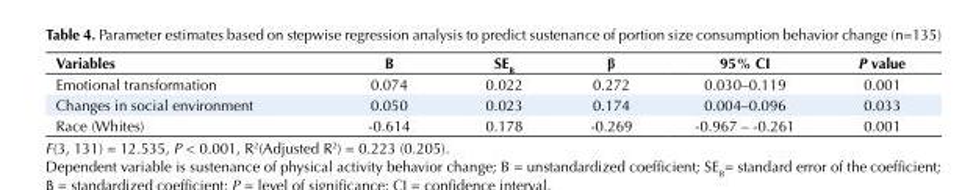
<table><tbody><tr><td>Variables</td><td>B</td><td>SE<sub>B</sub></td><td>β</td><td>95% CI</td><td>P value</td></tr><tr><td>Emotional transformation</td><td>0.074</td><td>0.022</td><td>0.272</td><td>0.030–0.119</td><td>0.001</td></tr><tr><td>Changes in social environment</td><td>0.050</td><td>0.023</td><td>0.174</td><td>0.004–0.096</td><td>0.033</td></tr><tr><td>Race (Whites)</td><td>-0.614</td><td>0.178</td><td>-0.269</td><td>-0.967 – -0.261</td><td>0.001</td></tr></tbody></table>